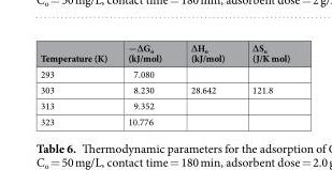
<table><thead><tr><td>Temperature (K)</td><td>−∆G<sub>o</sub> (kJ/mol)</td><td>∆H<sub>o</sub> (kJ/mol)</td><td>∆S<sub>o</sub> (J/K mol)</td></tr></thead><tbody><tr><td>293</td><td>7.080</td><td></td><td></td></tr><tr><td>303</td><td>8.230</td><td>28.642</td><td>121.8</td></tr><tr><td>313</td><td>9.352</td><td></td><td></td></tr><tr><td>323</td><td>10.776</td><td></td><td></td></tr></tbody></table>